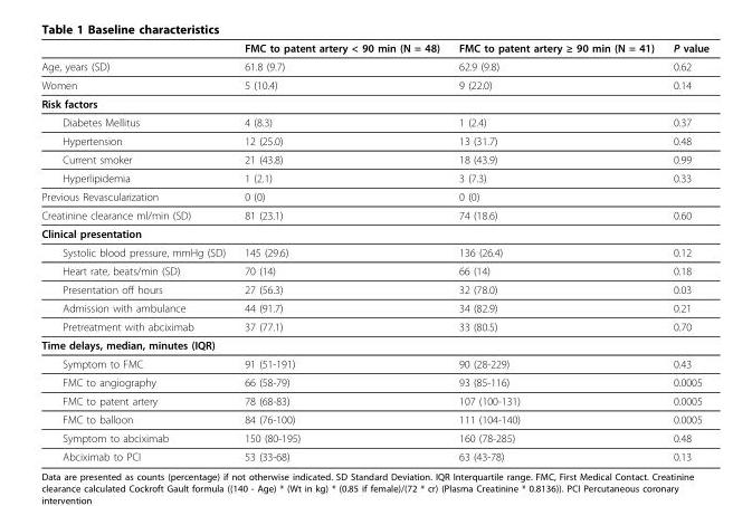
<table><thead><tr><td></td><td>FMC to patent artery &lt; 90 min (N = 48)</td><td>FMC to patent artery ≥ 90 min (N = 41)</td><td>P value</td></tr></thead><tbody><tr><td>Age, years (SD)</td><td>61.8 (9.7)</td><td>62.9 (9.8)</td><td>0.62</td></tr><tr><td>Women</td><td>5 (10.4)</td><td>9 (22.0)</td><td>0.14</td></tr><tr><td colspan="4">Risk factors</td></tr><tr><td>Diabetes Mellitus</td><td>4 (8.3)</td><td>1 (2.4)</td><td>0.37</td></tr><tr><td>Hypertension</td><td>12 (25.0)</td><td>13 (31.7)</td><td>0.48</td></tr><tr><td>Current smoker</td><td>21 (43.8)</td><td>18 (43.9)</td><td>0.99</td></tr><tr><td>Hyperlipidemia</td><td>1 (2.1)</td><td>3 (7.3)</td><td>0.33</td></tr><tr><td>Previous Revascularization</td><td>0 (0)</td><td>0 (0)</td><td></td></tr><tr><td>Creatinine clearance ml/min (SD)</td><td>81 (23.1)</td><td>74 (18.6)</td><td>0.60</td></tr><tr><td colspan="4">Clinical presentation</td></tr><tr><td>Systolic blood pressure, mmHg (SD)</td><td>145 (29.6)</td><td>136 (26.4)</td><td>0.12</td></tr><tr><td>Heart rate, beats/min (SD)</td><td>70 (14)</td><td>66 (14)</td><td>0.18</td></tr><tr><td>Presentation off hours</td><td>27 (56.3)</td><td>32 (78.0)</td><td>0.03</td></tr><tr><td>Admission with ambulance</td><td>44 (91.7)</td><td>34 (82.9)</td><td>0.21</td></tr><tr><td>Pretreatment with abciximab</td><td>37 (77.1)</td><td>33 (80.5)</td><td>0.70</td></tr><tr><td colspan="4">Time delays, median, minutes (IQR)</td></tr><tr><td>Symptom to FMC</td><td>91 (51-191)</td><td>90 (28-229)</td><td>0.43</td></tr><tr><td>FMC to angiography</td><td>66 (58-79)</td><td>93 (85-116)</td><td>0.0005</td></tr><tr><td>FMC to patent artery</td><td>78 (68-83)</td><td>107 (100-131)</td><td>0.0005</td></tr><tr><td>FMC to balloon</td><td>84 (76-100)</td><td>111 (104-140)</td><td>0.0005</td></tr><tr><td>Symptom to abciximab</td><td>150 (80-195)</td><td>160 (78-285)</td><td>0.48</td></tr><tr><td>Abciximab to PCI</td><td>53 (33-68)</td><td>63 (43-78)</td><td>0.13</td></tr></tbody></table>